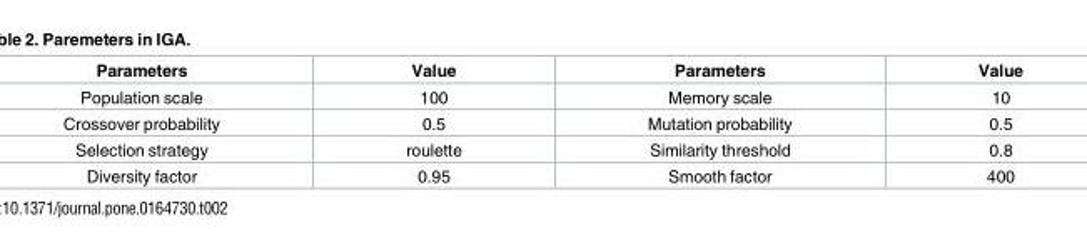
<table><thead><tr><td>Parameters</td><td>Value</td><td>Parameters</td><td>Value</td></tr></thead><tbody><tr><td>Population scale</td><td>100</td><td>Memory scale</td><td>10</td></tr><tr><td>Crossover probability</td><td>0.5</td><td>Mutation probability</td><td>0.5</td></tr><tr><td>Selection strategy</td><td>roulette</td><td>Similarity threshold</td><td>0.8</td></tr><tr><td>Diversity factor</td><td>0.95</td><td>Smooth factor</td><td>400</td></tr></tbody></table>